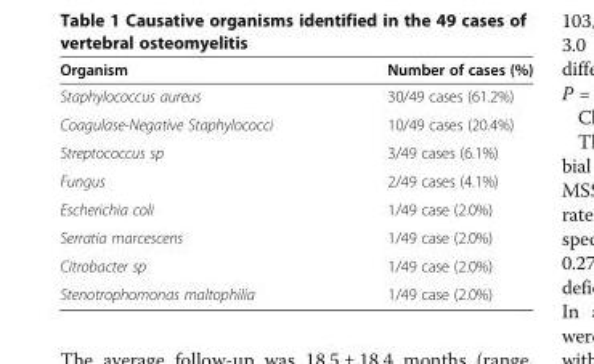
<table><thead><tr><td>Organism</td><td>Number of cases (%)</td></tr></thead><tbody><tr><td>Staphylococcus aureus</td><td>30/49 cases (61.2%)</td></tr><tr><td>Coagulase-Negative Staphylococci</td><td>10/49 cases (20.4%)</td></tr><tr><td>Streptococcus sp</td><td>3/49 cases (6.1%)</td></tr><tr><td>Fungus</td><td>2/49 cases (4.1%)</td></tr><tr><td>Escherichia coli</td><td>1/49 case (2.0%)</td></tr><tr><td>Serratia marcescens</td><td>1/49 case (2.0%)</td></tr><tr><td>Citrobacter sp</td><td>1/49 case (2.0%)</td></tr><tr><td>Stenotrophomonas maltophilia</td><td>1/49 case (2.0%)</td></tr></tbody></table>